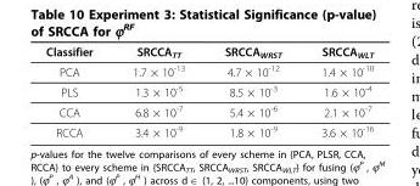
<table><thead><tr><td>Classifier</td><td>SRCCATT</td><td>SRCCAWRST</td><td>SRCCAWLT</td></tr></thead><tbody><tr><td>PCA</td><td>1.7 × 10-13</td><td>4.7 × 10-12</td><td>1.4 × 10-10</td></tr><tr><td>PLS</td><td>1.3 × 10-5</td><td>8.5 × 10-3</td><td>1.6 × 10-4</td></tr><tr><td>CCA</td><td>6.8 × 10-7</td><td>5.4 × 10-6</td><td>2.1 × 10-7</td></tr><tr><td>RCCA</td><td>3.4 × 10-9</td><td>1.8 × 10-9</td><td>3.6 × 10-16</td></tr></tbody></table>